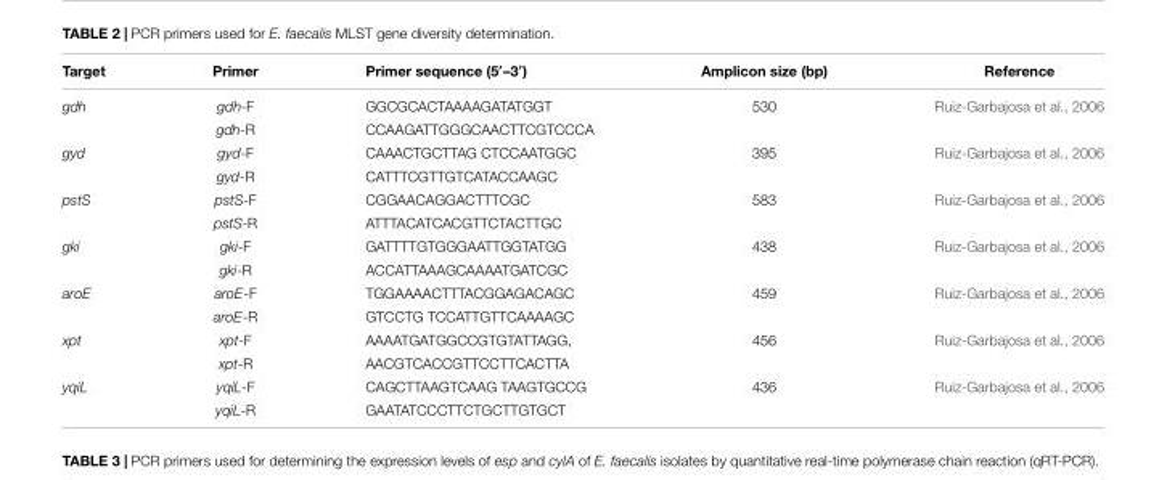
<table><thead><tr><td>Target</td><td>Primer</td><td>Primer sequence (5′–3′)</td><td>Amplicon size (bp)</td><td>Reference</td></tr></thead><tbody><tr><td rowspan="2">gdh</td><td>gdh-F</td><td>GGCGCACTAAAAGATATGGT</td><td>530</td><td>Ruiz-Garbajosa et al., 2006</td></tr><tr><td>gdh-R</td><td>CCAAGATTGGGCAACTTCGTCCCA</td><td></td><td></td></tr><tr><td rowspan="2">gyd</td><td>gyd-F</td><td>CAAACTGCTTAG CTCCAATGGC</td><td>395</td><td>Ruiz-Garbajosa et al., 2006</td></tr><tr><td>gyd-R</td><td>CATTTCGTTGTCATACCAAGC</td><td></td><td></td></tr><tr><td rowspan="2">pstS</td><td>pstS-F</td><td>CGGAACAGGACTTTCGC</td><td>583</td><td>Ruiz-Garbajosa et al., 2006</td></tr><tr><td>pstS-R</td><td>ATTTACATCACGTTCTACTTGC</td><td></td><td></td></tr><tr><td rowspan="2">gki</td><td>gki-F</td><td>GATTTTGTGGGAATTGGTATGG</td><td>438</td><td>Ruiz-Garbajosa et al., 2006</td></tr><tr><td>gki-R</td><td>ACCATTAAAGCAAAATGATCGC</td><td></td><td></td></tr><tr><td rowspan="2">aroE</td><td>aroE-F</td><td>TGGAAAACTTTACGGAGACAGC</td><td>459</td><td>Ruiz-Garbajosa et al., 2006</td></tr><tr><td>aroE-R</td><td>GTCCTG TCCATTGTTCAAAAGC</td><td></td><td></td></tr><tr><td rowspan="2">xpt</td><td>xpt-F</td><td>AAAATGATGGCCGTGTATTAGG,</td><td>456</td><td>Ruiz-Garbajosa et al., 2006</td></tr><tr><td>xpt-R</td><td>AACGTCACCGTTCCTTCACTTA</td><td></td><td></td></tr><tr><td rowspan="2">yqiL</td><td>yqiL-F</td><td>CAGCTTAAGTCAAG TAAGTGCCG</td><td>436</td><td>Ruiz-Garbajosa et al., 2006</td></tr><tr><td>yqiL-R</td><td>GAATATCCCTTCTGCTTGTGCT</td><td></td><td></td></tr></tbody></table>